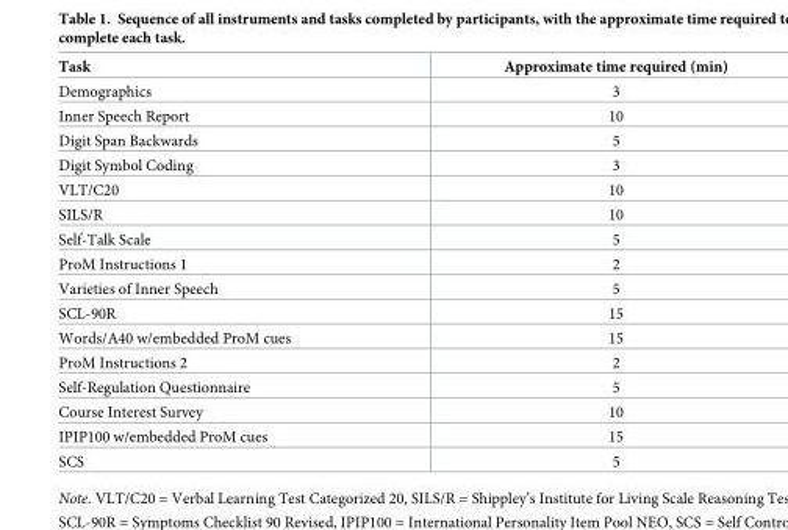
<table><thead><tr><td>Task</td><td>Approximate time required (min)</td></tr></thead><tbody><tr><td>Demographics</td><td>3</td></tr><tr><td>Inner Speech Report</td><td>10</td></tr><tr><td>Digit Span Backwards</td><td>5</td></tr><tr><td>Digit Symbol Coding</td><td>3</td></tr><tr><td>VLT/C20</td><td>10</td></tr><tr><td>SILS/R</td><td>10</td></tr><tr><td>Self-Talk Scale</td><td>5</td></tr><tr><td>ProM Instructions 1</td><td>2</td></tr><tr><td>Varieties of Inner Speech</td><td>5</td></tr><tr><td>SCL-90R</td><td>15</td></tr><tr><td>Words/A40 w/embedded ProM cues</td><td>15</td></tr><tr><td>ProM Instructions 2</td><td>2</td></tr><tr><td>Self-Regulation Questionnaire</td><td>5</td></tr><tr><td>Course Interest Survey</td><td>10</td></tr><tr><td>IPIP100 w/embedded ProM cues</td><td>15</td></tr><tr><td>SCS</td><td>5</td></tr></tbody></table>